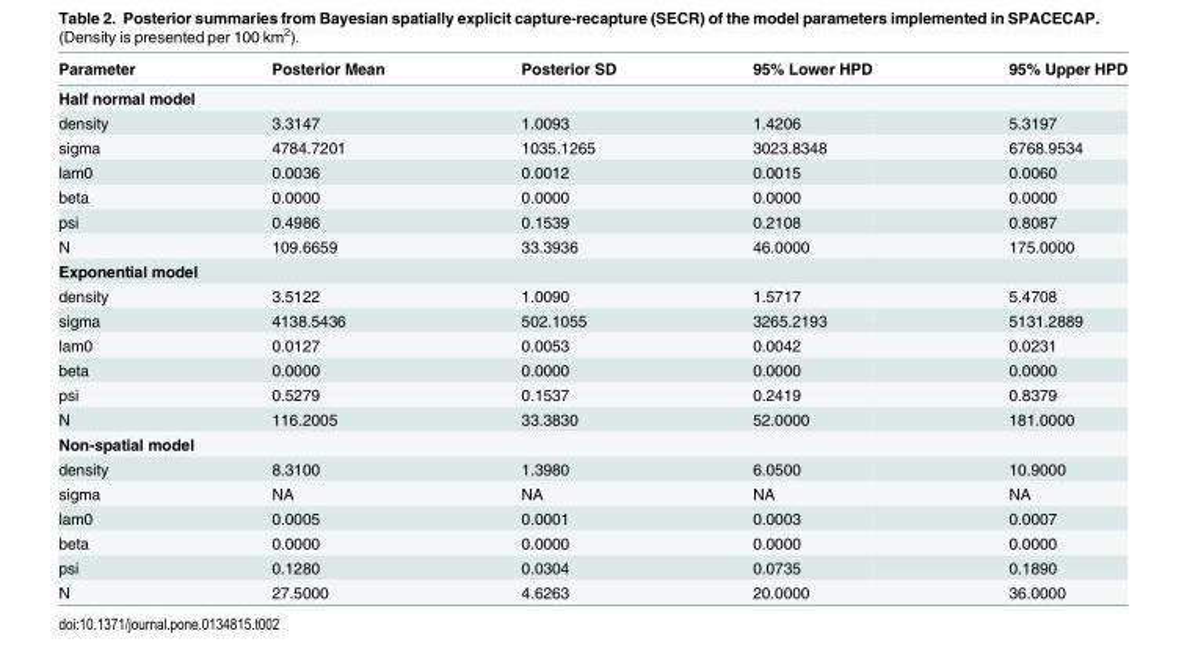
<table><thead><tr><td>Parameter</td><td>Posterior Mean</td><td>Posterior SD</td><td>95% Lower HPD</td><td>95% Upper HPD</td></tr></thead><tbody><tr><td colspan="5">Half normal model</td></tr><tr><td>density</td><td>3.3147</td><td>1.0093</td><td>1.4206</td><td>5.3197</td></tr><tr><td>sigma</td><td>4784.7201</td><td>1035.1265</td><td>3023.8348</td><td>6768.9534</td></tr><tr><td>lam0</td><td>0.0036</td><td>0.0012</td><td>0.0015</td><td>0.0060</td></tr><tr><td>beta</td><td>0.0000</td><td>0.0000</td><td>0.0000</td><td>0.0000</td></tr><tr><td>psi</td><td>0.4986</td><td>0.1539</td><td>0.2108</td><td>0.8087</td></tr><tr><td>N</td><td>109.6659</td><td>33.3936</td><td>46.0000</td><td>175.0000</td></tr><tr><td colspan="5">Exponential model</td></tr><tr><td>density</td><td>3.5122</td><td>1.0090</td><td>1.5717</td><td>5.4708</td></tr><tr><td>sigma</td><td>4138.5436</td><td>502.1055</td><td>3265.2193</td><td>5131.2889</td></tr><tr><td>lam0</td><td>0.0127</td><td>0.0053</td><td>0.0042</td><td>0.0231</td></tr><tr><td>beta</td><td>0.0000</td><td>0.0000</td><td>0.0000</td><td>0.0000</td></tr><tr><td>psi</td><td>0.5279</td><td>0.1537</td><td>0.2419</td><td>0.8379</td></tr><tr><td>N</td><td>116.2005</td><td>33.3830</td><td>52.0000</td><td>181.0000</td></tr><tr><td colspan="5">Non-spatial model</td></tr><tr><td>density</td><td>8.3100</td><td>1.3980</td><td>6.0500</td><td>10.9000</td></tr><tr><td>sigma</td><td>NA</td><td>NA</td><td>NA</td><td>NA</td></tr><tr><td>lam0</td><td>0.0005</td><td>0.0001</td><td>0.0003</td><td>0.0007</td></tr><tr><td>beta</td><td>0.0000</td><td>0.0000</td><td>0.0000</td><td>0.0000</td></tr><tr><td>psi</td><td>0.1280</td><td>0.0304</td><td>0.0735</td><td>0.1890</td></tr><tr><td>N</td><td>27.5000</td><td>4.6263</td><td>20.0000</td><td>36.0000</td></tr></tbody></table>